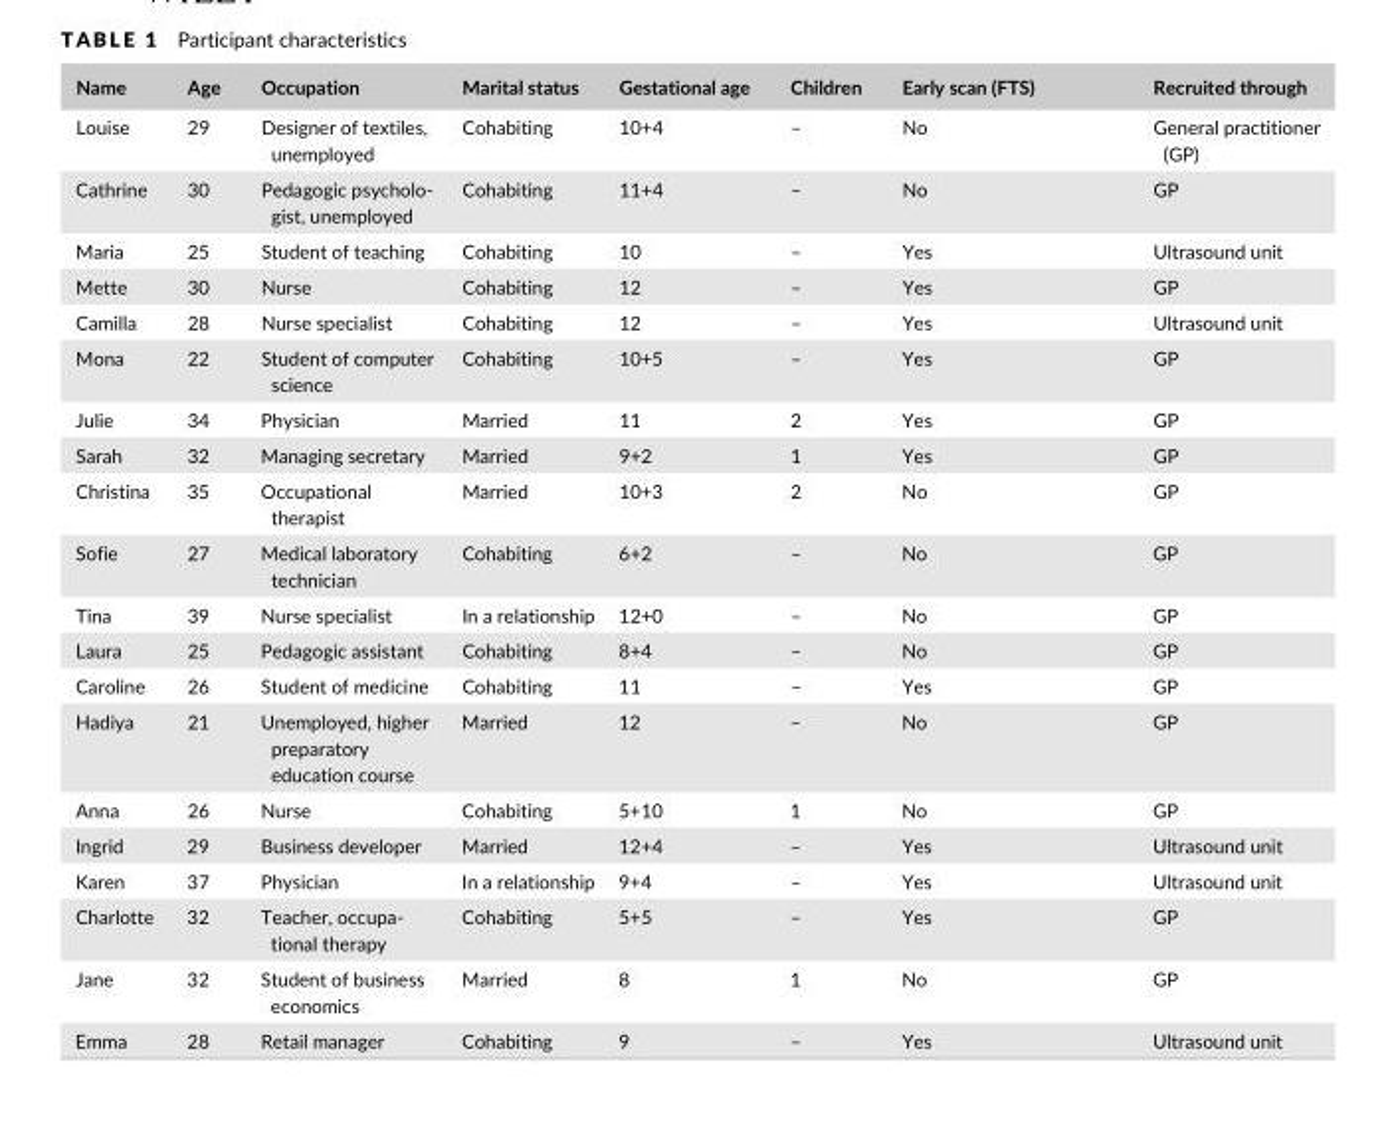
<table><thead><tr><td>Name</td><td>Age</td><td>Occupation</td><td>Marital status</td><td>Gestational age</td><td>Children</td><td>Early scan (FTS)</td><td>Recruited through</td></tr></thead><tbody><tr><td>Louise</td><td>29</td><td>Designer of textiles, unemployed</td><td>Cohabiting</td><td>10+4</td><td>–</td><td>No</td><td>General practitioner (GP)</td></tr><tr><td>Cathrine</td><td>30</td><td>Pedagogic psycholo- gist, unemployed</td><td>Cohabiting</td><td>11+4</td><td>–</td><td>No</td><td>GP</td></tr><tr><td>Maria</td><td>25</td><td>Student of teaching</td><td>Cohabiting</td><td>10</td><td>–</td><td>Yes</td><td>Ultrasound unit</td></tr><tr><td>Mette</td><td>30</td><td>Nurse</td><td>Cohabiting</td><td>12</td><td>–</td><td>Yes</td><td>GP</td></tr><tr><td>Camilla</td><td>28</td><td>Nurse specialist</td><td>Cohabiting</td><td>12</td><td>–</td><td>Yes</td><td>Ultrasound unit</td></tr><tr><td>Mona</td><td>22</td><td>Student of computer science</td><td>Cohabiting</td><td>10+5</td><td>–</td><td>Yes</td><td>GP</td></tr><tr><td>Julie</td><td>34</td><td>Physician</td><td>Married</td><td>11</td><td>2</td><td>Yes</td><td>GP</td></tr><tr><td>Sarah</td><td>32</td><td>Managing secretary</td><td>Married</td><td>9+2</td><td>1</td><td>Yes</td><td>GP</td></tr><tr><td>Christina</td><td>35</td><td>Occupational therapist</td><td>Married</td><td>10+3</td><td>2</td><td>No</td><td>GP</td></tr><tr><td>Sofie</td><td>27</td><td>Medical laboratory technician</td><td>Cohabiting</td><td>6+2</td><td>–</td><td>No</td><td>GP</td></tr><tr><td>Tina</td><td>39</td><td>Nurse specialist</td><td>In a relationship</td><td>12+0</td><td>–</td><td>No</td><td>GP</td></tr><tr><td>Laura</td><td>25</td><td>Pedagogic assistant</td><td>Cohabiting</td><td>8+4</td><td>–</td><td>No</td><td>GP</td></tr><tr><td>Caroline</td><td>26</td><td>Student of medicine</td><td>Cohabiting</td><td>11</td><td>–</td><td>Yes</td><td>GP</td></tr><tr><td>Hadiya</td><td>21</td><td>Unemployed, higher preparatory education course</td><td>Married</td><td>12</td><td>–</td><td>No</td><td>GP</td></tr><tr><td>Anna</td><td>26</td><td>Nurse</td><td>Cohabiting</td><td>5+10</td><td>1</td><td>No</td><td>GP</td></tr><tr><td>Ingrid</td><td>29</td><td>Business developer</td><td>Married</td><td>12+4</td><td>–</td><td>Yes</td><td>Ultrasound unit</td></tr><tr><td>Karen</td><td>37</td><td>Physician</td><td>In a relationship</td><td>9+4</td><td>–</td><td>Yes</td><td>Ultrasound unit</td></tr><tr><td>Charlotte</td><td>32</td><td>Teacher, occupa- tional therapy</td><td>Cohabiting</td><td>5+5</td><td>–</td><td>Yes</td><td>GP</td></tr><tr><td>Jane</td><td>32</td><td>Student of business economics</td><td>Married</td><td>8</td><td>1</td><td>No</td><td>GP</td></tr><tr><td>Emma</td><td>28</td><td>Retail manager</td><td>Cohabiting</td><td>9</td><td>–</td><td>Yes</td><td>Ultrasound unit</td></tr></tbody></table>